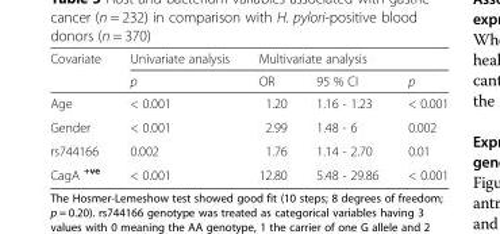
<table><thead><tr><td rowspan="2">Covariate</td><td rowspan="2">Univariate analysis p</td><td colspan="3">Multivariate analysis</td></tr><tr><td>OR</td><td>95 % CI</td><td>p</td></tr></thead><tbody><tr><td>Age</td><td>&lt; 0.001</td><td>1.20</td><td>1.16 - 1.23</td><td>&lt; 0.001</td></tr><tr><td>Gender</td><td>&lt; 0.001</td><td>2.99</td><td>1.48 - 6</td><td>0.002</td></tr><tr><td>rs744166</td><td>0.002</td><td>1.76</td><td>1.14 - 2.70</td><td>0.01</td></tr><tr><td>CagA <sup>+ve</sup></td><td>&lt; 0.001</td><td>12.80</td><td>5.48 - 29.86</td><td>&lt; 0.001</td></tr></tbody></table>